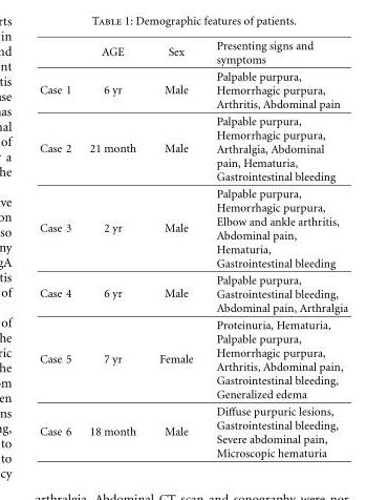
<table><thead><tr><td></td><td>AGE</td><td>Sex</td><td>Presenting signs and symptoms</td></tr></thead><tbody><tr><td>Case 1</td><td>6 yr</td><td>Male</td><td>Palpable purpura, Hemorrhagic purpura, Arthritis, Abdominal pain</td></tr><tr><td>Case 2</td><td>21 month</td><td>Male</td><td>Palpable purpura, Hemorrhagic purpura, Arthralgia, Abdominal pain, Hematuria, Gastrointestinal bleeding</td></tr><tr><td>Case 3</td><td>2 yr</td><td>Male</td><td>Palpable purpura, Hemorrhagic purpura, Elbow and ankle arthritis, Abdominal pain, Hematuria, Gastrointestinal bleeding</td></tr><tr><td>Case 4</td><td>6 yr</td><td>Male</td><td>Palpable purpura, Gastrointestinal bleeding, Abdominal pain, Arthralgia</td></tr><tr><td>Case 5</td><td>7 yr</td><td>Female</td><td>Proteinuria, Hematuria, Palpable purpura, Hemorrhagic purpura, Arthritis, Abdominal pain, Gastrointestinal bleeding, Generalized edema</td></tr><tr><td>Case 6</td><td>18 month</td><td>Male</td><td>Diffuse purpuric lesions, Gastrointestinal bleeding, Severe abdominal pain, Microscopic hematuria</td></tr></tbody></table>